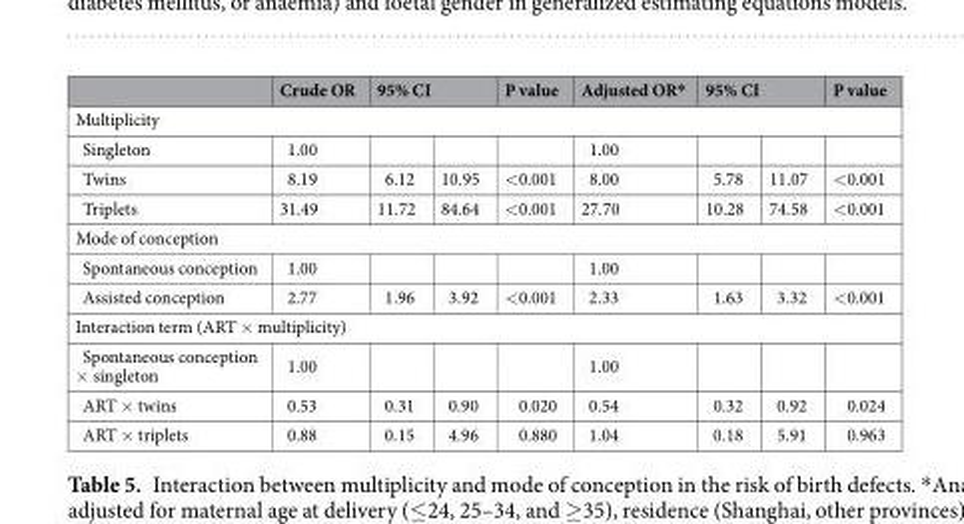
<table><thead><tr><td></td><td>Crude OR</td><td colspan="2">95% CI</td><td>P value</td><td>Adjusted OR*</td><td colspan="2">95% CI</td><td>P value</td></tr><tr><td colspan="9">Multiplicity</td></tr><tr><td>Singleton</td><td>1.00</td><td></td><td></td><td></td><td>1.00</td><td></td><td></td><td></td></tr></thead><tbody><tr><td>Twins</td><td>8.19</td><td>6.12</td><td>10.95</td><td>&lt;0.001</td><td>8.00</td><td>5.78</td><td>11.07</td><td>&lt;0.001</td></tr><tr><td>Triplets</td><td>31.49</td><td>11.72</td><td>84.64</td><td>&lt;0.001</td><td>27.70</td><td>10.28</td><td>74.58</td><td>&lt;0.001</td></tr><tr><td colspan="9">Mode of conception</td></tr><tr><td>Spontaneous conception</td><td>1.00</td><td></td><td></td><td></td><td>1.00</td><td></td><td></td><td></td></tr><tr><td>Assisted conception</td><td>2.77</td><td>1.96</td><td>3.92</td><td>&lt;0.001</td><td>2.33</td><td>1.63</td><td>3.32</td><td>&lt;0.001</td></tr><tr><td colspan="9">Interaction term (ART × multiplicity)</td></tr><tr><td>Spontaneous conception × singleton</td><td>1.00</td><td></td><td></td><td></td><td>1.00</td><td></td><td></td><td></td></tr><tr><td>ART × twins</td><td>0.53</td><td>0.31</td><td>0.90</td><td>0.020</td><td>0.54</td><td>0.32</td><td>0.92</td><td>0.024</td></tr><tr><td>ART × triplets</td><td>0.88</td><td>0.15</td><td>4.96</td><td>0.880</td><td>1.04</td><td>0.18</td><td>5.91</td><td>0.963</td></tr></tbody></table>